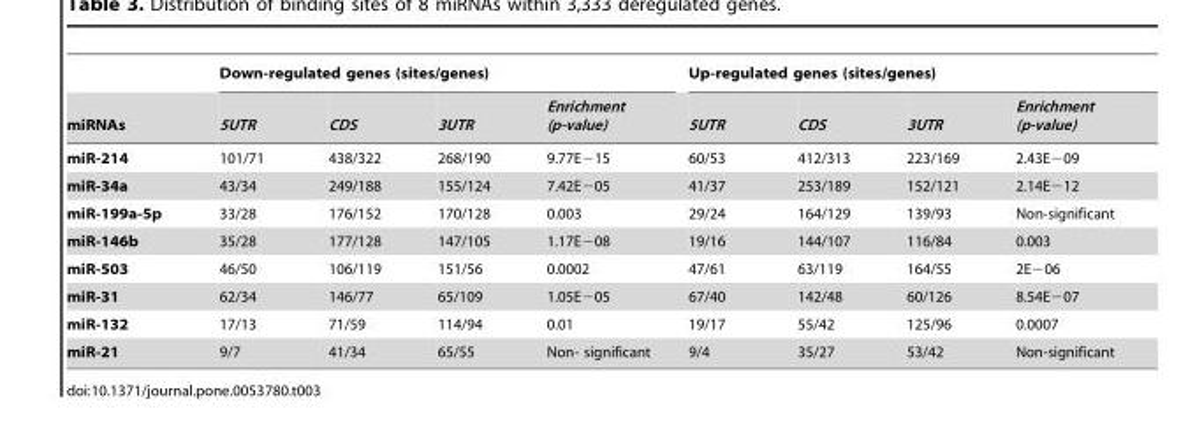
<table><thead><tr><td rowspan="2">miRNAs</td><td colspan="4">Down-regulated genes (sites/genes)</td><td colspan="4">Up-regulated genes (sites/genes)</td></tr><tr><td>5UTR</td><td>CDS</td><td>3UTR</td><td>Enrichment (p-value)</td><td>5UTR</td><td>CDS</td><td>3UTR</td><td>Enrichment (p-value)</td></tr></thead><tbody><tr><td>miR-214</td><td>101/71</td><td>438/322</td><td>268/190</td><td>9.77E−15</td><td>60/53</td><td>412/313</td><td>223/169</td><td>2.43E−09</td></tr><tr><td>miR-34a</td><td>43/34</td><td>249/188</td><td>155/124</td><td>7.42E−05</td><td>41/37</td><td>253/189</td><td>152/121</td><td>2.14E−12</td></tr><tr><td>miR-199a-5p</td><td>33/28</td><td>176/152</td><td>170/128</td><td>0.003</td><td>29/24</td><td>164/129</td><td>139/93</td><td>Non-significant</td></tr><tr><td>miR-146b</td><td>35/28</td><td>177/128</td><td>147/105</td><td>1.17E−08</td><td>19/16</td><td>144/107</td><td>116/84</td><td>0.003</td></tr><tr><td>miR-503</td><td>46/50</td><td>106/119</td><td>151/56</td><td>0.0002</td><td>47/61</td><td>63/119</td><td>164/55</td><td>2E−06</td></tr><tr><td>miR-31</td><td>62/34</td><td>146/77</td><td>65/109</td><td>1.05E−05</td><td>67/40</td><td>142/48</td><td>60/126</td><td>8.54E−07</td></tr><tr><td>miR-132</td><td>17/13</td><td>71/59</td><td>114/94</td><td>0.01</td><td>19/17</td><td>55/42</td><td>125/96</td><td>0.0007</td></tr><tr><td>miR-21</td><td>9/7</td><td>41/34</td><td>65/55</td><td>Non- significant</td><td>9/4</td><td>35/27</td><td>53/42</td><td>Non-significant</td></tr></tbody></table>